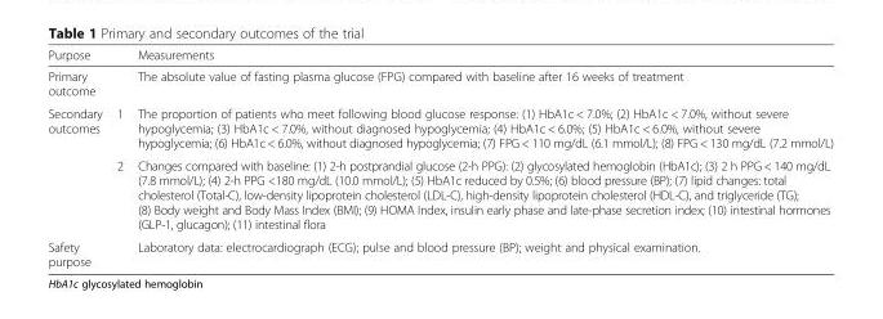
<table><thead><tr><td>Purpose</td><td></td><td>Measurements</td></tr></thead><tbody><tr><td>Primary outcome</td><td></td><td>The absolute value of fasting plasma glucose (FPG) compared with baseline after 16 weeks of treatment</td></tr><tr><td rowspan="2">Secondary outcomes</td><td>1</td><td>The proportion of patients who meet following blood glucose response: (1) HbA1c &lt; 7.0%; (2) HbA1c &lt; 7.0%, without severe hypoglycemia; (3) HbA1c &lt; 7.0%, without diagnosed hypoglycemia; (4) HbA1c &lt; 6.0%; (5) HbA1c &lt; 6.0%, without severe hypoglycemia; (6) HbA1c &lt; 6.0%, without diagnosed hypoglycemia; (7) FPG &lt; 110 mg/dL (6.1 mmol/L); (8) FPG &lt; 130 mg/dL (7.2 mmol/L)</td></tr><tr><td>2</td><td>Changes compared with baseline: (1) 2-h postprandial glucose (2-h PPG): (2) glycosylated hemoglobin (HbA1c); (3) 2 h PPG &lt; 140 mg/dL (7.8 mmol/L); (4) 2-h PPG &lt;180 mg/dL (10.0 mmol/L); (5) HbA1c reduced by 0.5%; (6) blood pressure (BP); (7) lipid changes: total cholesterol (Total-C), low-density lipoprotein cholesterol (LDL-C), high-density lipoprotein cholesterol (HDL-C), and triglyceride (TG); (8) Body weight and Body Mass Index (BMI); (9) HOMA Index, insulin early phase and late-phase secretion index; (10) intestinal hormones (GLP-1, glucagon); (11) intestinal flora</td></tr><tr><td>Safety purpose</td><td></td><td>Laboratory data: electrocardiograph (ECG); pulse and blood pressure (BP); weight and physical examination.</td></tr></tbody></table>